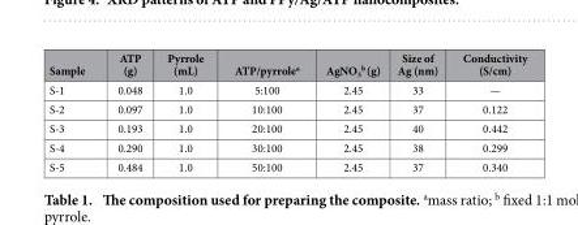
<table><thead><tr><td>Sample</td><td>ATP (g)</td><td>Pyrrole (mL)</td><td>ATP/pyrrole<sup>a</sup></td><td>AgNO<sub>3</sub> <sup>b (g)</sup></td><td>Size of Ag (nm)</td><td>Conductivity (S/cm)</td></tr></thead><tbody><tr><td>S-1</td><td>0.048</td><td>1.0</td><td>5:100</td><td>2.45</td><td>33</td><td>—</td></tr><tr><td>S-2</td><td>0.097</td><td>1.0</td><td>10:100</td><td>2.45</td><td>37</td><td>0.122</td></tr><tr><td>S-3</td><td>0.193</td><td>1.0</td><td>20:100</td><td>2.45</td><td>40</td><td>0.442</td></tr><tr><td>S-4</td><td>0.290</td><td>1.0</td><td>30:100</td><td>2.45</td><td>38</td><td>0.299</td></tr><tr><td>S-5</td><td>0.484</td><td>1.0</td><td>50:100</td><td>2.45</td><td>37</td><td>0.340</td></tr></tbody></table>